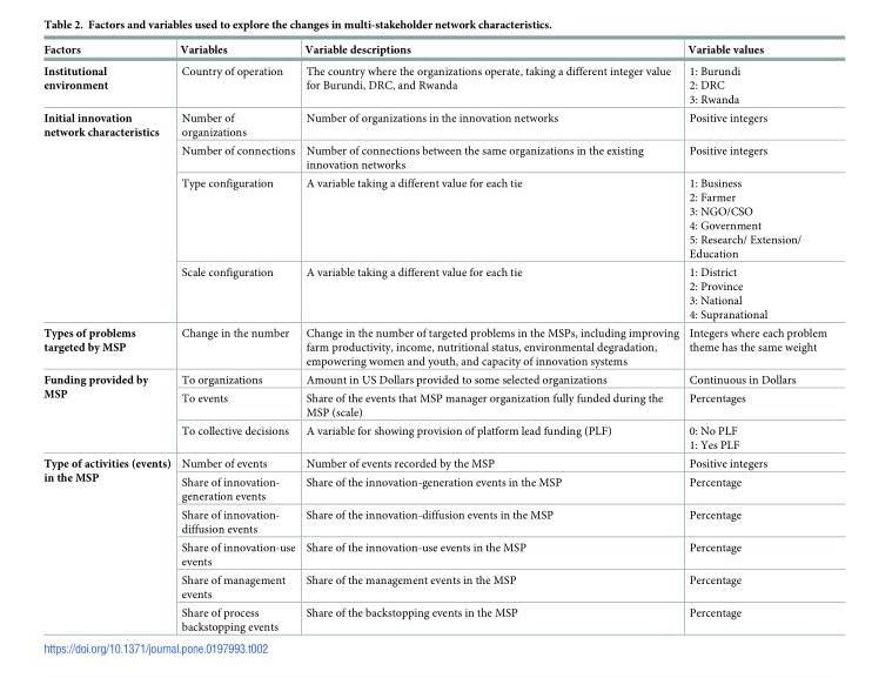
<table><thead><tr><td>Factors</td><td>Variables</td><td>Variable descriptions</td><td>Variable values</td></tr></thead><tbody><tr><td>Institutional environment</td><td>Country of operation</td><td>The country where the organizations operate, taking a different integer value for Burundi, DRC, and Rwanda</td><td>1: Burundi 2: DRC 3: Rwanda</td></tr><tr><td rowspan="4">Initial innovation network characteristics</td><td>Number of organizations</td><td>Number of organizations in the innovation networks</td><td>Positive integers</td></tr><tr><td>Number of connections</td><td>Number of connections between the same organizations in the existing innovation networks</td><td>Positive integers</td></tr><tr><td>Type configuration</td><td>A variable taking a different value for each tie</td><td>1: Business 2: Farmer 3: NGO/CSO 4: Government 5: Research/ Extension/ Education</td></tr><tr><td>Scale configuration</td><td>A variable taking a different value for each tie</td><td>1: District 2: Province 3: National 4: Supranational</td></tr><tr><td>Types of problems targeted by MSP</td><td>Change in the number</td><td>Change in the number of targeted problems in the MSPs, including improving farm productivity, income, nutritional status, environmental degradation, empowering women and youth, and capacity of innovation systems</td><td>Integers where each problem theme has the same weight</td></tr><tr><td rowspan="3">Funding provided by MSP</td><td>To organizations</td><td>Amount in US Dollars provided to some selected organizations</td><td>Continuous in Dollars</td></tr><tr><td>To events</td><td>Share of the events that MSP manager organization fully funded during the MSP (scale)</td><td>Percentages</td></tr><tr><td>To collective decisions</td><td>A variable for showing provision of platform lead funding (PLF)</td><td>0: No PLF 1: Yes PLF</td></tr><tr><td rowspan="6">Type of activities (events) in the MSP</td><td>Number of events</td><td>Number of events recorded by the MSP</td><td>Positive integers</td></tr><tr><td>Share of innovation- generation events</td><td>Share of the innovation-generation events in the MSP</td><td>Percentage</td></tr><tr><td>Share of innovation- diffusion events</td><td>Share of the innovation-diffusion events in the MSP</td><td>Percentage</td></tr><tr><td>Share of innovation-use events</td><td>Share of the innovation-use events in the MSP</td><td>Percentage</td></tr><tr><td>Share of management events</td><td>Share of the management events in the MSP</td><td>Percentage</td></tr><tr><td>Share of process backstopping events</td><td>Share of the backstopping events in the MSP</td><td>Percentage</td></tr></tbody></table>